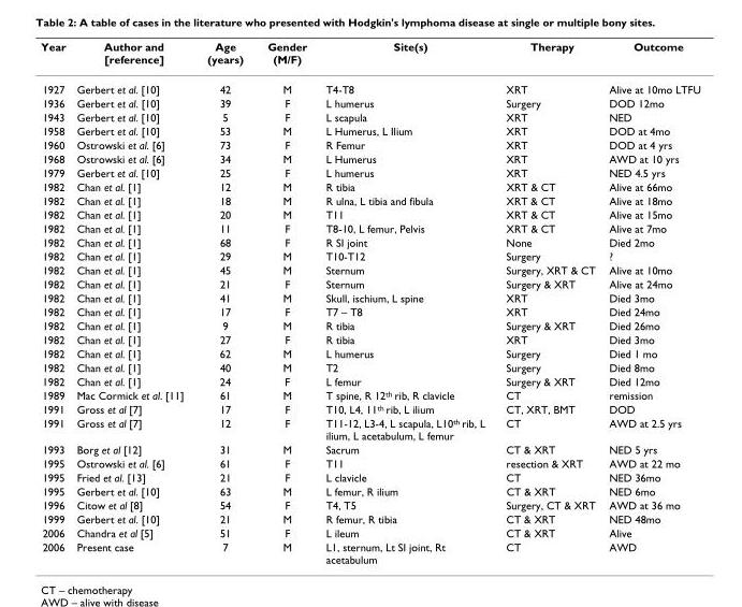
<table><thead><tr><td>Year</td><td>Author and [reference]</td><td>Age (years)</td><td>Gender (M/F)</td><td>Site(s)</td><td>Therapy</td><td>Outcome</td></tr></thead><tbody><tr><td>1927</td><td>Gerbert et al. [10]</td><td>42</td><td>M</td><td>T4-T8</td><td>XRT</td><td>Alive at 10mo LTFU</td></tr><tr><td>1936</td><td>Gerbert et al. [10]</td><td>39</td><td>F</td><td>L humerus</td><td>Surgery</td><td>DOD 12mo</td></tr><tr><td>1943</td><td>Gerbert et al. [10]</td><td>5</td><td>F</td><td>L scapula</td><td>XRT</td><td>NED</td></tr><tr><td>1958</td><td>Gerbert et al. [10]</td><td>53</td><td>M</td><td>L Humerus, L Ilium</td><td>XRT</td><td>DOD at 4mo</td></tr><tr><td>1960</td><td>Ostrowski et al. [6]</td><td>73</td><td>F</td><td>R Femur</td><td>XRT</td><td>DOD at 4 yrs</td></tr><tr><td>1968</td><td>Ostrowski et al. [6]</td><td>34</td><td>M</td><td>L Humerus</td><td>XRT</td><td>AWD at 10 yrs</td></tr><tr><td>1979</td><td>Gerbert et al. [10]</td><td>25</td><td>F</td><td>L humerus</td><td>XRT</td><td>NED 4.5 yrs</td></tr><tr><td>1982</td><td>Chan et al. [1]</td><td>12</td><td>M</td><td>R tibia</td><td>XRT &amp; CT</td><td>Alive at 66mo</td></tr><tr><td>1982</td><td>Chan et al. [1]</td><td>18</td><td>M</td><td>R ulna, L tibia and fibula</td><td>XRT &amp; CT</td><td>Alive at 18mo</td></tr><tr><td>1982</td><td>Chan et al. [1]</td><td>20</td><td>M</td><td>T11</td><td>XRT &amp; CT</td><td>Alive at 15mo</td></tr><tr><td>1982</td><td>Chan et al. [1]</td><td>11</td><td>F</td><td>T8-10, L femur, Pelvis</td><td>XRT &amp; CT</td><td>Alive at 7mo</td></tr><tr><td>1982</td><td>Chan et al. [1]</td><td>68</td><td>F</td><td>R SI joint</td><td>None</td><td>Died 2mo</td></tr><tr><td>1982</td><td>Chan et al. [1]</td><td>29</td><td>M</td><td>T10-T12</td><td>Surgery</td><td>?</td></tr><tr><td>1982</td><td>Chan et al. [1]</td><td>45</td><td>M</td><td>Sternum</td><td>Surgery, XRT &amp; CT</td><td>Alive at 10mo</td></tr><tr><td>1982</td><td>Chan et al. [1]</td><td>21</td><td>F</td><td>Sternum</td><td>Surgery &amp; XRT</td><td>Alive at 24mo</td></tr><tr><td>1982</td><td>Chan et al. [1]</td><td>41</td><td>M</td><td>Skull, ischium, L spine</td><td>XRT</td><td>Died 3mo</td></tr><tr><td>1982</td><td>Chan et al. [1]</td><td>17</td><td>F</td><td>T7 – T8</td><td>XRT</td><td>Died 24mo</td></tr><tr><td>1982</td><td>Chan et al. [1]</td><td>9</td><td>M</td><td>R tibia</td><td>Surgery &amp; XRT</td><td>Died 26mo</td></tr><tr><td>1982</td><td>Chan et al. [1]</td><td>27</td><td>F</td><td>R tibia</td><td>XRT</td><td>Died 3mo</td></tr><tr><td>1982</td><td>Chan et al. [1]</td><td>62</td><td>M</td><td>L humerus</td><td>Surgery</td><td>Died 1 mo</td></tr><tr><td>1982</td><td>Chan et al. [1]</td><td>40</td><td>M</td><td>T2</td><td>Surgery</td><td>Died 8mo</td></tr><tr><td>1982</td><td>Chan et al. [1]</td><td>24</td><td>F</td><td>L femur</td><td>Surgery &amp; XRT</td><td>Died 12mo</td></tr><tr><td>1989</td><td>Mac Cormick et al. [11]</td><td>61</td><td>M</td><td>T spine, R 12<sup>th</sup> rib, R clavicle</td><td>CT</td><td>remission</td></tr><tr><td>1991</td><td>Gross et al [7]</td><td>17</td><td>F</td><td>T10, L4, 11<sup>th</sup> rib, L ilium</td><td>CT, XRT, BMT</td><td>DOD</td></tr><tr><td>1991</td><td>Gross et al [7]</td><td>12</td><td>F</td><td>T11-12, L3-4, L scapula, L10<sup>th</sup> rib, L ilium, L acetabulum, L femur</td><td>CT</td><td>AWD at 2.5 yrs</td></tr><tr><td>1993</td><td>Borg et al [12]</td><td>31</td><td>M</td><td>Sacrum</td><td>CT &amp; XRT</td><td>NED 5 yrs</td></tr><tr><td>1995</td><td>Ostrowski et al. [6]</td><td>61</td><td>F</td><td>T11</td><td>resection &amp; XRT</td><td>AWD at 22 mo</td></tr><tr><td>1995</td><td>Fried et al. [13]</td><td>21</td><td>F</td><td>L clavicle</td><td>CT</td><td>NED 36mo</td></tr><tr><td>1995</td><td>Gerbert et al. [10]</td><td>63</td><td>M</td><td>L femur, R ilium</td><td>CT &amp; XRT</td><td>NED 6mo</td></tr><tr><td>1996</td><td>Citow et al [8]</td><td>54</td><td>F</td><td>T4, T5</td><td>Surgery, CT &amp; XRT</td><td>AWD at 36 mo</td></tr><tr><td>1999</td><td>Gerbert et al. [10]</td><td>21</td><td>M</td><td>R femur, R tibia</td><td>CT &amp; XRT</td><td>NED 48mo</td></tr><tr><td>2006</td><td>Chandra et al [5]</td><td>51</td><td>F</td><td>L ileum</td><td>CT &amp; XRT</td><td>Alive</td></tr><tr><td>2006</td><td>Present case</td><td>7</td><td>M</td><td>L1, sternum, Lt SI joint, Rt acetabulum</td><td>CT</td><td>AWD</td></tr></tbody></table>